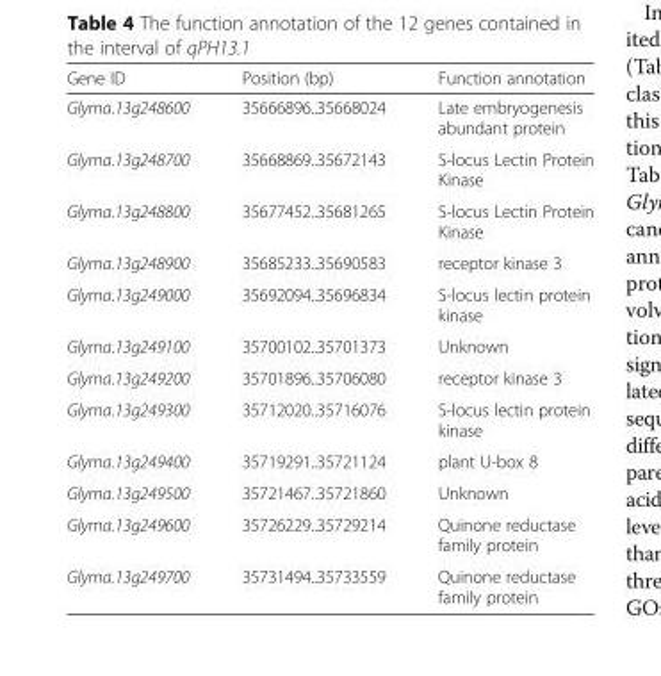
<table><thead><tr><td>Gene ID</td><td>Position (bp)</td><td>Function annotation</td></tr></thead><tbody><tr><td>Glyma.13g248600</td><td>35666896..35668024</td><td>Late embryogenesis abundant protein</td></tr><tr><td>Glyma.13g248700</td><td>35668869..35672143</td><td>S-locus Lectin Protein Kinase</td></tr><tr><td>Glyma.13g248800</td><td>35677452..35681265</td><td>S-locus Lectin Protein Kinase</td></tr><tr><td>Glyma.13g248900</td><td>35685233..35690583</td><td>receptor kinase 3</td></tr><tr><td>Glyma.13g249000</td><td>35692094..35696834</td><td>S-locus lectin protein kinase</td></tr><tr><td>Glyma.13g249100</td><td>35700102..35701373</td><td>Unknown</td></tr><tr><td>Glyma.13g249200</td><td>35701896..35706080</td><td>receptor kinase 3</td></tr><tr><td>Glyma.13g249300</td><td>35712020..35716076</td><td>S-locus lectin protein kinase</td></tr><tr><td>Glyma.13g249400</td><td>35719291..35721124</td><td>plant U-box 8</td></tr><tr><td>Glyma.13g249500</td><td>35721467..35721860</td><td>Unknown</td></tr><tr><td>Glyma.13g249600</td><td>35726229..35729214</td><td>Quinone reductase family protein</td></tr><tr><td>Glyma.13g249700</td><td>35731494..35733559</td><td>Quinone reductase family protein</td></tr></tbody></table>